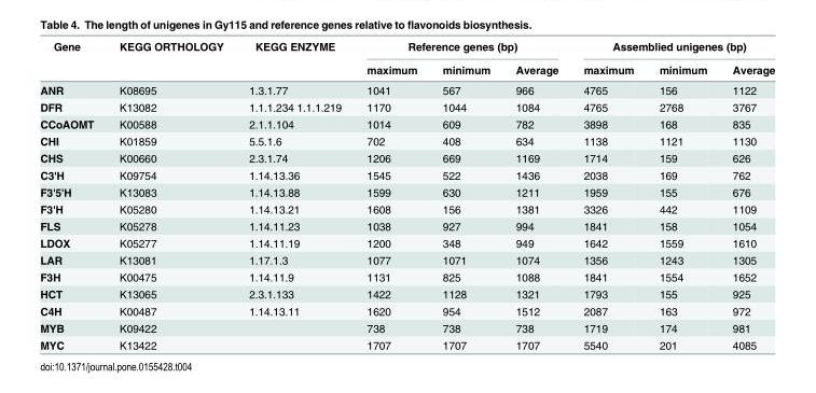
<table><thead><tr><td rowspan="2">Gene</td><td rowspan="2">KEGG ORTHOLOGY</td><td rowspan="2">KEGG ENZYME</td><td colspan="3">Reference genes (bp)</td><td colspan="3">Assemblied unigenes (bp)</td></tr><tr><td>maximum</td><td>minimum</td><td>Average</td><td>maximum</td><td>minimum</td><td>Average</td></tr></thead><tbody><tr><td>ANR</td><td>K08695</td><td>1.3.1.77</td><td>1041</td><td>567</td><td>966</td><td>4765</td><td>156</td><td>1122</td></tr><tr><td>DFR</td><td>K13082</td><td>1.1.1.234 1.1.1.219</td><td>1170</td><td>1044</td><td>1084</td><td>4765</td><td>2768</td><td>3767</td></tr><tr><td>CCoAOMT</td><td>K00588</td><td>2.1.1.104</td><td>1014</td><td>609</td><td>782</td><td>3898</td><td>168</td><td>835</td></tr><tr><td>CHI</td><td>K01859</td><td>5.5.1.6</td><td>702</td><td>408</td><td>634</td><td>1138</td><td>1121</td><td>1130</td></tr><tr><td>CHS</td><td>K00660</td><td>2.3.1.74</td><td>1206</td><td>669</td><td>1169</td><td>1714</td><td>159</td><td>626</td></tr><tr><td>C3&#x27;H</td><td>K09754</td><td>1.14.13.36</td><td>1545</td><td>522</td><td>1436</td><td>2038</td><td>169</td><td>762</td></tr><tr><td>F3&#x27;5&#x27;H</td><td>K13083</td><td>1.14.13.88</td><td>1599</td><td>630</td><td>1211</td><td>1959</td><td>155</td><td>676</td></tr><tr><td>F3&#x27;H</td><td>K05280</td><td>1.14.13.21</td><td>1608</td><td>156</td><td>1381</td><td>3326</td><td>442</td><td>1109</td></tr><tr><td>FLS</td><td>K05278</td><td>1.14.11.23</td><td>1038</td><td>927</td><td>994</td><td>1841</td><td>158</td><td>1054</td></tr><tr><td>LDOX</td><td>K05277</td><td>1.14.11.19</td><td>1200</td><td>348</td><td>949</td><td>1642</td><td>1559</td><td>1610</td></tr><tr><td>LAR</td><td>K13081</td><td>1.17.1.3</td><td>1077</td><td>1071</td><td>1074</td><td>1356</td><td>1243</td><td>1305</td></tr><tr><td>F3H</td><td>K00475</td><td>1.14.11.9</td><td>1131</td><td>825</td><td>1088</td><td>1841</td><td>1554</td><td>1652</td></tr><tr><td>HCT</td><td>K13065</td><td>2.3.1.133</td><td>1422</td><td>1128</td><td>1321</td><td>1793</td><td>155</td><td>925</td></tr><tr><td>C4H</td><td>K00487</td><td>1.14.13.11</td><td>1620</td><td>954</td><td>1512</td><td>2087</td><td>163</td><td>972</td></tr><tr><td>MYB</td><td>K09422</td><td></td><td>738</td><td>738</td><td>738</td><td>1719</td><td>174</td><td>981</td></tr><tr><td>MYC</td><td>K13422</td><td></td><td>1707</td><td>1707</td><td>1707</td><td>5540</td><td>201</td><td>4085</td></tr></tbody></table>